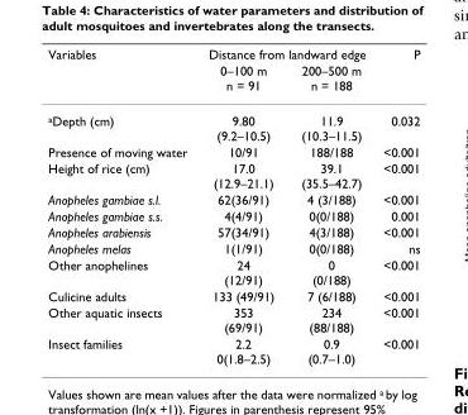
<table><thead><tr><td rowspan="2">Variables</td><td colspan="2">Distance from landward edge</td><td rowspan="2">P</td></tr><tr><td>0–100 m n = 91</td><td>200–500 m n = 188</td></tr></thead><tbody><tr><td><sup>a</sup>Depth (cm)</td><td>9.80 (9.2–10.5)</td><td>11.9 (10.3–11.5)</td><td>0.032</td></tr><tr><td>Presence of moving water</td><td>10/91</td><td>188/188</td><td>&lt;0.001</td></tr><tr><td>Height of rice (cm)</td><td>17.0 (12.9–21.1)</td><td>39.1 (35.5–42.7)</td><td>&lt;0.001</td></tr><tr><td>Anopheles gambiae s.l.</td><td>62(36/91)</td><td>4 (3/188)</td><td>&lt;0.001</td></tr><tr><td>Anopheles gambiae s.s.</td><td>4(4/91)</td><td>0(0/188)</td><td>0.001</td></tr><tr><td>Anopheles arabiensis</td><td>57(34/91)</td><td>4(3/188)</td><td>&lt;0.001</td></tr><tr><td>Anopheles melas</td><td>1(1/91)</td><td>0(0/188)</td><td>ns</td></tr><tr><td>Other anophelines</td><td>24 (12/91)</td><td>0 (0/188)</td><td>&lt;0.001</td></tr><tr><td>Culicine adults</td><td>133 (49/91)</td><td>7 (6/188)</td><td>&lt;0.001</td></tr><tr><td>Other aquatic insects</td><td>353 (69/91)</td><td>234 (88/188)</td><td>&lt;0.001</td></tr><tr><td>Insect families</td><td>2.2 0(1.8–2.5)</td><td>0.9 (0.7–1.0)</td><td>&lt;0.001</td></tr></tbody></table>